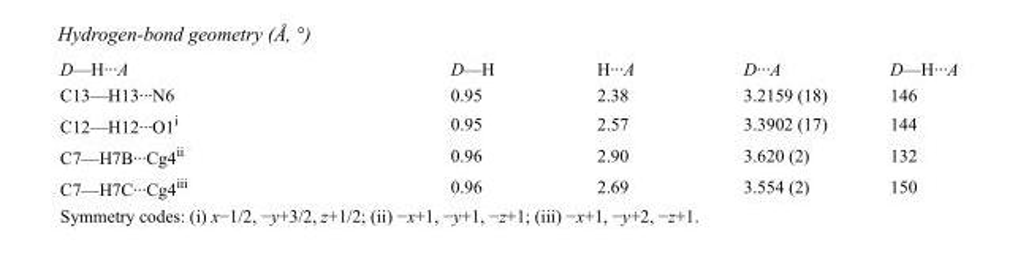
<table><tbody><tr><td>D—H···A</td><td>D—H</td><td>H···A</td><td>D···A</td><td>D—H···A</td></tr><tr><td>C13—H13···N6</td><td>0.95</td><td>2.38</td><td>3.2159 (18)</td><td>146</td></tr><tr><td>C12—H12···O1<sup>i</sup></td><td>0.95</td><td>2.57</td><td>3.3902 (17)</td><td>144</td></tr><tr><td>C7—H7B···Cg4<sup>ii</sup></td><td>0.96</td><td>2.90</td><td>3.620 (2)</td><td>132</td></tr><tr><td>C7—H7C···Cg4<sup>iii</sup></td><td>0.96</td><td>2.69</td><td>3.554 (2)</td><td>150</td></tr></tbody></table>